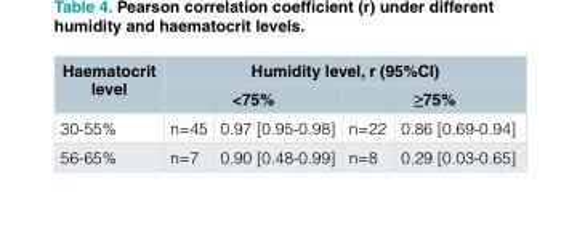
<table><thead><tr><td rowspan="3">Haematocrit level 30-55%</td><td colspan="4">Humidity level, r (95%CI)</td></tr><tr><td colspan="2">&lt;75%</td><td colspan="2">≥75%</td></tr><tr><td>n=45</td><td>0.97 [0.95-0.98]</td><td>n=22</td><td>0.86 [0.69-0.94]</td></tr></thead><tbody><tr><td>56-65%</td><td>n=7</td><td>0.90 [0.48-0.99]</td><td>n=8</td><td>0.29 [0.03-0.65]</td></tr></tbody></table>